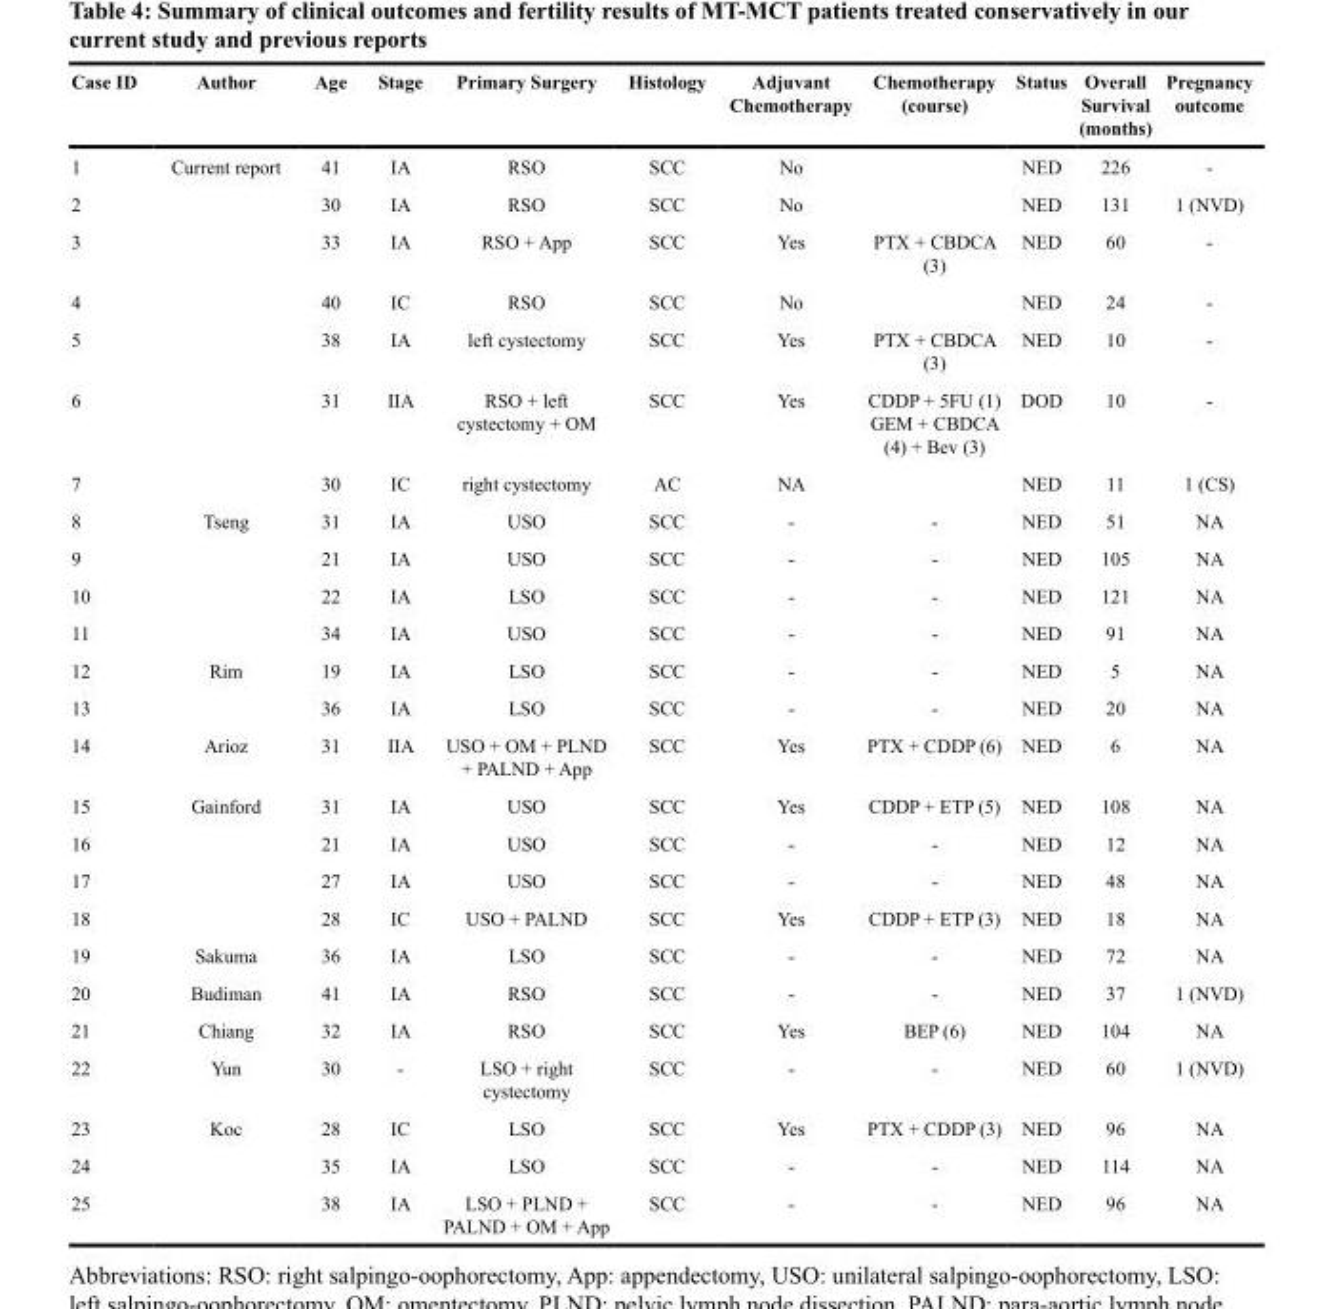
<table><thead><tr><td>Case ID</td><td>Author</td><td>Age</td><td>Stage</td><td>Primary Surgery</td><td>Histology</td><td>Adjuvant Chemotherapy</td><td>Chemotherapy (course)</td><td>Status</td><td>Overall Survival (months)</td><td>Pregnancy outcome</td></tr></thead><tbody><tr><td>1</td><td rowspan="7">Current report</td><td>41</td><td>IA</td><td>RSO</td><td>SCC</td><td>No</td><td></td><td>NED</td><td>226</td><td>-</td></tr><tr><td>2</td><td>30</td><td>IA</td><td>RSO</td><td>SCC</td><td>No</td><td></td><td>NED</td><td>131</td><td>1 (NVD)</td></tr><tr><td>3</td><td>33</td><td>IA</td><td>RSO + App</td><td>SCC</td><td>Yes</td><td>PTX + CBDCA (3)</td><td>NED</td><td>60</td><td>-</td></tr><tr><td>4</td><td>40</td><td>IC</td><td>RSO</td><td>SCC</td><td>No</td><td></td><td>NED</td><td>24</td><td>-</td></tr><tr><td>5</td><td>38</td><td>IA</td><td>left cystectomy</td><td>SCC</td><td>Yes</td><td>PTX + CBDCA (3)</td><td>NED</td><td>10</td><td>-</td></tr><tr><td>6</td><td>31</td><td>IIA</td><td>RSO + left cystectomy + OM</td><td>SCC</td><td>Yes</td><td>CDDP + 5FU (1) GEM + CBDCA (4) + Bev (3)</td><td>DOD</td><td>10</td><td>-</td></tr><tr><td>7</td><td>30</td><td>IC</td><td>right cystectomy</td><td>AC</td><td>NA</td><td></td><td>NED</td><td>11</td><td>1 (CS)</td></tr><tr><td>8</td><td rowspan="4">Tseng</td><td>31</td><td>IA</td><td>USO</td><td>SCC</td><td>-</td><td>-</td><td>NED</td><td>51</td><td>NA</td></tr><tr><td>9</td><td>21</td><td>IA</td><td>USO</td><td>SCC</td><td>-</td><td>-</td><td>NED</td><td>105</td><td>NA</td></tr><tr><td>10</td><td>22</td><td>IA</td><td>LSO</td><td>SCC</td><td>-</td><td>-</td><td>NED</td><td>121</td><td>NA</td></tr><tr><td>11</td><td>34</td><td>IA</td><td>USO</td><td>SCC</td><td>-</td><td>-</td><td>NED</td><td>91</td><td>NA</td></tr><tr><td>12</td><td rowspan="2">Rim</td><td>19</td><td>IA</td><td>LSO</td><td>SCC</td><td>-</td><td>-</td><td>NED</td><td>5</td><td>NA</td></tr><tr><td>13</td><td>36</td><td>IA</td><td>LSO</td><td>SCC</td><td>-</td><td>-</td><td>NED</td><td>20</td><td>NA</td></tr><tr><td>14</td><td>Arioz</td><td>31</td><td>IIA</td><td>USO + OM + PLND + PALND + App</td><td>SCC</td><td>Yes</td><td>PTX + CDDP (6)</td><td>NED</td><td>6</td><td>NA</td></tr><tr><td>15</td><td rowspan="4">Gainford</td><td>31</td><td>IA</td><td>USO</td><td>SCC</td><td>Yes</td><td>CDDP + ETP (5)</td><td>NED</td><td>108</td><td>NA</td></tr><tr><td>16</td><td>21</td><td>IA</td><td>USO</td><td>SCC</td><td>-</td><td>-</td><td>NED</td><td>12</td><td>NA</td></tr><tr><td>17</td><td>27</td><td>IA</td><td>USO</td><td>SCC</td><td>-</td><td>-</td><td>NED</td><td>48</td><td>NA</td></tr><tr><td>18</td><td>28</td><td>IC</td><td>USO + PALND</td><td>SCC</td><td>Yes</td><td>CDDP + ETP (3)</td><td>NED</td><td>18</td><td>NA</td></tr><tr><td>19</td><td>Sakuma</td><td>36</td><td>IA</td><td>LSO</td><td>SCC</td><td>-</td><td>-</td><td>NED</td><td>72</td><td>NA</td></tr><tr><td>20</td><td>Budiman</td><td>41</td><td>IA</td><td>RSO</td><td>SCC</td><td>-</td><td>-</td><td>NED</td><td>37</td><td>1 (NVD)</td></tr><tr><td>21</td><td>Chiang</td><td>32</td><td>IA</td><td>RSO</td><td>SCC</td><td>Yes</td><td>BEP (6)</td><td>NED</td><td>104</td><td>NA</td></tr><tr><td>22</td><td>Yun</td><td>30</td><td>-</td><td>LSO + right cystectomy</td><td>SCC</td><td>-</td><td>-</td><td>NED</td><td>60</td><td>1 (NVD)</td></tr><tr><td>23</td><td rowspan="3">Koc</td><td>28</td><td>IC</td><td>LSO</td><td>SCC</td><td>Yes</td><td>PTX + CDDP (3)</td><td>NED</td><td>96</td><td>NA</td></tr><tr><td>24</td><td>35</td><td>IA</td><td>LSO</td><td>SCC</td><td>-</td><td>-</td><td>NED</td><td>114</td><td>NA</td></tr><tr><td>25</td><td>38</td><td>IA</td><td>LSO + PLND + PALND + OM + App</td><td>SCC</td><td>-</td><td>-</td><td>NED</td><td>96</td><td>NA</td></tr></tbody></table>